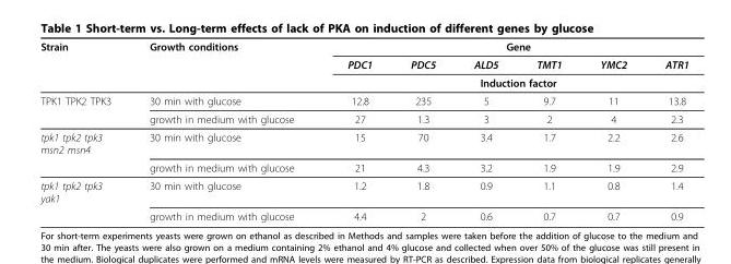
<table><thead><tr><td rowspan="3">Strain</td><td rowspan="3">Growth conditions</td><td colspan="6">Gene</td></tr><tr><td>PDC1</td><td>PDC5</td><td>ALD5</td><td>TMT1</td><td>YMC2</td><td>ATR1</td></tr><tr><td colspan="6">Induction factor</td></tr></thead><tbody><tr><td rowspan="2">TPK1 TPK2 TPK3</td><td>30 min with glucose</td><td>12.8</td><td>235</td><td>5</td><td>9.7</td><td>11</td><td>13.8</td></tr><tr><td>growth in medium with glucose</td><td>27</td><td>1.3</td><td>3</td><td>2</td><td>4</td><td>2.3</td></tr><tr><td rowspan="2">tpk1 tpk2 tpk3 msn2 msn4</td><td>30 min with glucose</td><td>15</td><td>70</td><td>3.4</td><td>1.7</td><td>2.2</td><td>2.6</td></tr><tr><td>growth in medium with glucose</td><td>21</td><td>4.3</td><td>3.2</td><td>1.9</td><td>1.9</td><td>2.9</td></tr><tr><td rowspan="2">tpk1 tpk2 tpk3 yak1</td><td>30 min with glucose</td><td>1.2</td><td>1.8</td><td>0.9</td><td>1.1</td><td>0.8</td><td>1.4</td></tr><tr><td>growth in medium with glucose</td><td>4.4</td><td>2</td><td>0.6</td><td>0.7</td><td>0.7</td><td>0.9</td></tr></tbody></table>